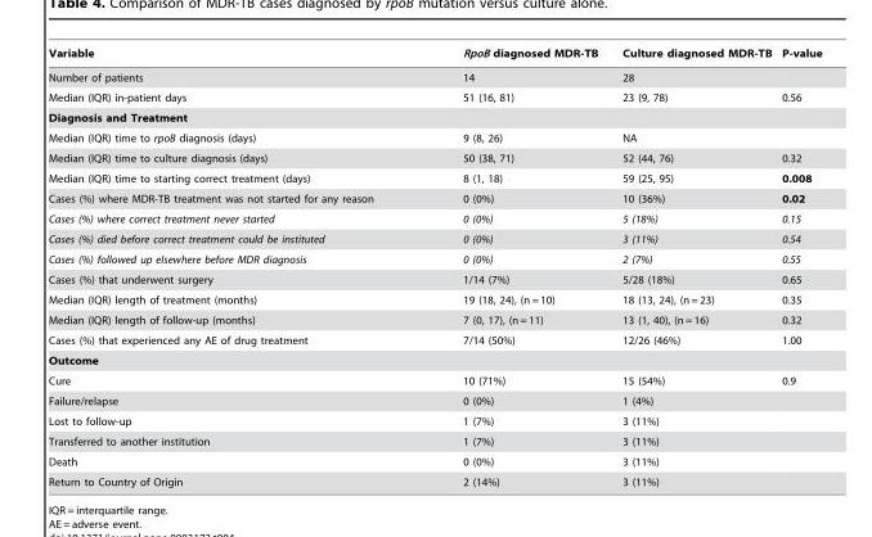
<table><thead><tr><td>Variable</td><td>RpoB diagnosed MDR-TB</td><td>Culture diagnosed MDR-TB</td><td>P-value</td></tr></thead><tbody><tr><td>Number of patients</td><td>14</td><td>28</td><td></td></tr><tr><td>Median (IQR) in-patient days</td><td>51 (16, 81)</td><td>23 (9, 78)</td><td>0.56</td></tr><tr><td colspan="4">Diagnosis and Treatment</td></tr><tr><td>Median (IQR) time to rpoB diagnosis (days)</td><td>9 (8, 26)</td><td>NA</td><td></td></tr><tr><td>Median (IQR) time to culture diagnosis (days)</td><td>50 (38, 71)</td><td>52 (44, 76)</td><td>0.32</td></tr><tr><td>Median (IQR) time to starting correct treatment (days)</td><td>8 (1, 18)</td><td>59 (25, 95)</td><td>0.008</td></tr><tr><td>Cases (%) where MDR-TB treatment was not started for any reason</td><td>0 (0%)</td><td>10 (36%)</td><td>0.02</td></tr><tr><td>Cases (%) where correct treatment never started</td><td>0 (0%)</td><td>5 (18%)</td><td>0.15</td></tr><tr><td>Cases (%) died before correct treatment could be instituted</td><td>0 (0%)</td><td>3 (11%)</td><td>0.54</td></tr><tr><td>Cases (%) followed up elsewhere before MDR diagnosis</td><td>0 (0%)</td><td>2 (7%)</td><td>0.55</td></tr><tr><td>Cases (%) that underwent surgery</td><td>1/14 (7%)</td><td>5/28 (18%)</td><td>0.65</td></tr><tr><td>Median (IQR) length of treatment (months)</td><td>19 (18, 24), (n = 10)</td><td>18 (13, 24), (n = 23)</td><td>0.35</td></tr><tr><td>Median (IQR) length of follow-up (months)</td><td>7 (0, 17), (n = 11)</td><td>13 (1, 40), (n = 16)</td><td>0.32</td></tr><tr><td>Cases (%) that experienced any AE of drug treatment</td><td>7/14 (50%)</td><td>12/26 (46%)</td><td>1.00</td></tr><tr><td colspan="4">Outcome</td></tr><tr><td>Cure</td><td>10 (71%)</td><td>15 (54%)</td><td>0.9</td></tr><tr><td>Failure/relapse</td><td>0 (0%)</td><td>1 (4%)</td><td></td></tr><tr><td>Lost to follow-up</td><td>1 (7%)</td><td>3 (11%)</td><td></td></tr><tr><td>Transferred to another institution</td><td>1 (7%)</td><td>3 (11%)</td><td></td></tr><tr><td>Death</td><td>0 (0%)</td><td>3 (11%)</td><td></td></tr><tr><td>Return to Country of Origin</td><td>2 (14%)</td><td>3 (11%)</td><td></td></tr></tbody></table>